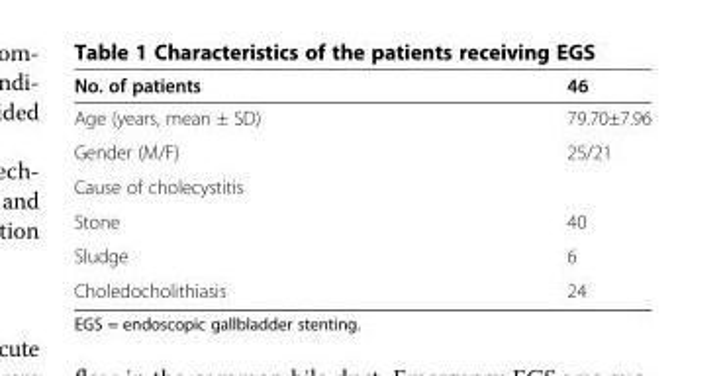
<table><thead><tr><td>No. of patients</td><td>46</td></tr></thead><tbody><tr><td>Age (years, mean ± SD)</td><td>79.70±7.96</td></tr><tr><td>Gender (M/F)</td><td>25/21</td></tr><tr><td colspan="2">Cause of cholecystitis</td></tr><tr><td>Stone</td><td>40</td></tr><tr><td>Sludge</td><td>6</td></tr><tr><td>Choledocholithiasis</td><td>24</td></tr></tbody></table>